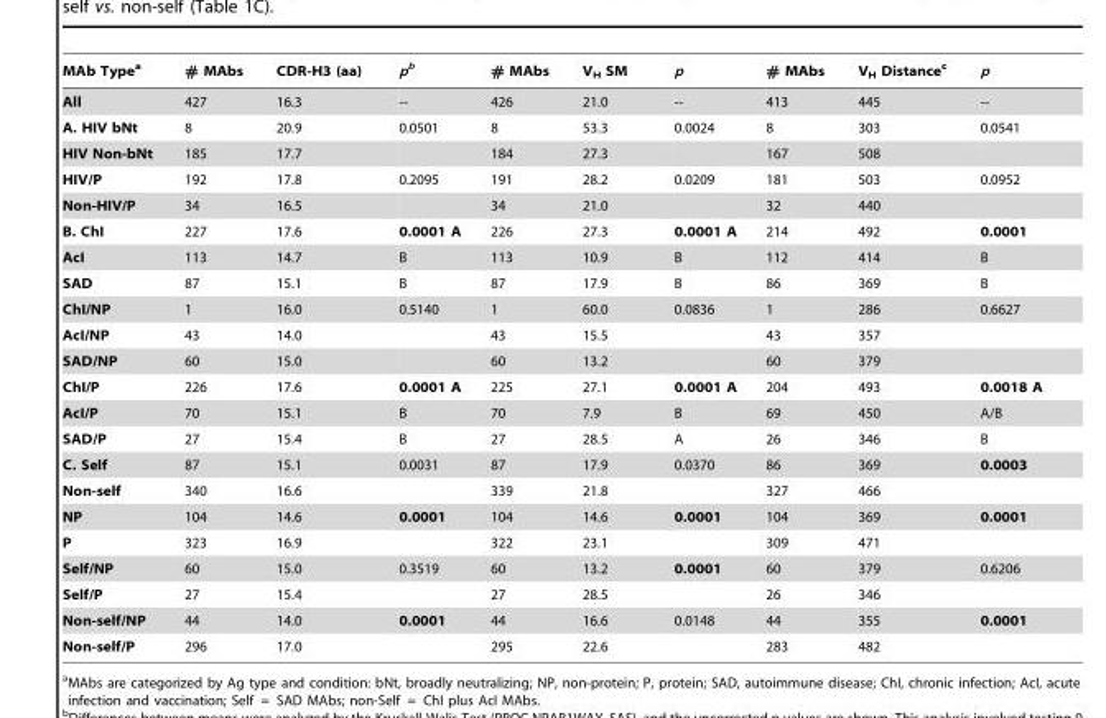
<table><thead><tr><td>MAb Type<sup>a</sup></td><td># MAbs</td><td>CDR-H3 (aa)</td><td>pb</td><td># MAbs</td><td>V<sub>H</sub> SM</td><td>p</td><td># MAbs</td><td>V<sub>H</sub> Distance<sup>c</sup></td><td>p</td></tr></thead><tbody><tr><td>All</td><td>427</td><td>16.3</td><td>--</td><td>426</td><td>21.0</td><td>--</td><td>413</td><td>445</td><td>--</td></tr><tr><td>A. HIV bNt</td><td>8</td><td>20.9</td><td>0.0501</td><td>8</td><td>53.3</td><td>0.0024</td><td>8</td><td>303</td><td>0.0541</td></tr><tr><td>HIV Non-bNt</td><td>185</td><td>17.7</td><td></td><td>184</td><td>27.3</td><td></td><td>167</td><td>508</td><td></td></tr><tr><td>HIV/P</td><td>192</td><td>17.8</td><td>0.2095</td><td>191</td><td>28.2</td><td>0.0209</td><td>181</td><td>503</td><td>0.0952</td></tr><tr><td>Non-HIV/P</td><td>34</td><td>16.5</td><td></td><td>34</td><td>21.0</td><td></td><td>32</td><td>440</td><td></td></tr><tr><td>B. ChI</td><td>227</td><td>17.6</td><td>0.0001 A</td><td>226</td><td>27.3</td><td>0.0001 A</td><td>214</td><td>492</td><td>0.0001</td></tr><tr><td>AcI</td><td>113</td><td>14.7</td><td>B</td><td>113</td><td>10.9</td><td>B</td><td>112</td><td>414</td><td>B</td></tr><tr><td>SAD</td><td>87</td><td>15.1</td><td>B</td><td>87</td><td>17.9</td><td>B</td><td>86</td><td>369</td><td>B</td></tr><tr><td>ChI/NP</td><td>1</td><td>16.0</td><td>0.5140</td><td>1</td><td>60.0</td><td>0.0836</td><td>1</td><td>286</td><td>0.6627</td></tr><tr><td>AcI/NP</td><td>43</td><td>14.0</td><td></td><td>43</td><td>15.5</td><td></td><td>43</td><td>357</td><td></td></tr><tr><td>SAD/NP</td><td>60</td><td>15.0</td><td></td><td>60</td><td>13.2</td><td></td><td>60</td><td>379</td><td></td></tr><tr><td>ChI/P</td><td>226</td><td>17.6</td><td>0.0001 A</td><td>225</td><td>27.1</td><td>0.0001 A</td><td>204</td><td>493</td><td>0.0018 A</td></tr><tr><td>AcI/P</td><td>70</td><td>15.1</td><td>B</td><td>70</td><td>7.9</td><td>B</td><td>69</td><td>450</td><td>A/B</td></tr><tr><td>SAD/P</td><td>27</td><td>15.4</td><td>B</td><td>27</td><td>28.5</td><td>A</td><td>26</td><td>346</td><td>B</td></tr><tr><td>C. Self</td><td>87</td><td>15.1</td><td>0.0031</td><td>87</td><td>17.9</td><td>0.0370</td><td>86</td><td>369</td><td>0.0003</td></tr><tr><td>Non-self</td><td>340</td><td>16.6</td><td></td><td>339</td><td>21.8</td><td></td><td>327</td><td>466</td><td></td></tr><tr><td>NP</td><td>104</td><td>14.6</td><td>0.0001</td><td>104</td><td>14.6</td><td>0.0001</td><td>104</td><td>369</td><td>0.0001</td></tr><tr><td>P</td><td>323</td><td>16.9</td><td></td><td>322</td><td>23.1</td><td></td><td>309</td><td>471</td><td></td></tr><tr><td>Self/NP</td><td>60</td><td>15.0</td><td>0.3519</td><td>60</td><td>13.2</td><td>0.0001</td><td>60</td><td>379</td><td>0.6206</td></tr><tr><td>Self/P</td><td>27</td><td>15.4</td><td></td><td>27</td><td>28.5</td><td></td><td>26</td><td>346</td><td></td></tr><tr><td>Non-self/NP</td><td>44</td><td>14.0</td><td>0.0001</td><td>44</td><td>16.6</td><td>0.0148</td><td>44</td><td>355</td><td>0.0001</td></tr><tr><td>Non-self/P</td><td>296</td><td>17.0</td><td></td><td>295</td><td>22.6</td><td></td><td>283</td><td>482</td><td></td></tr></tbody></table>